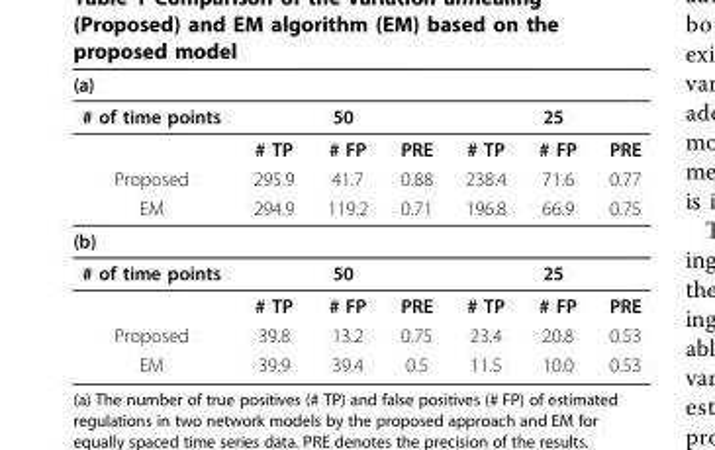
<table><thead><tr><td>(a)</td><td></td><td></td><td></td><td></td><td></td><td></td></tr></thead><tbody><tr><td rowspan="2"># of time points</td><td colspan="3">50</td><td colspan="3">25</td></tr><tr><td># TP</td><td># FP</td><td>PRE</td><td># TP</td><td># FP</td><td>PRE</td></tr><tr><td>Proposed</td><td>295.9</td><td>41.7</td><td>0.88</td><td>238.4</td><td>71.6</td><td>0.77</td></tr><tr><td>EM</td><td>294.9</td><td>119.2</td><td>0.71</td><td>196.8</td><td>66.9</td><td>0.75</td></tr><tr><td colspan="7">(b)</td></tr><tr><td rowspan="2"># of time points</td><td colspan="3">50</td><td colspan="3">25</td></tr><tr><td># TP</td><td># FP</td><td>PRE</td><td># TP</td><td># FP</td><td>PRE</td></tr><tr><td>Proposed</td><td>39.8</td><td>13.2</td><td>0.75</td><td>23.4</td><td>20.8</td><td>0.53</td></tr><tr><td>EM</td><td>39.9</td><td>39.4</td><td>0.5</td><td>11.5</td><td>10.0</td><td>0.53</td></tr></tbody></table>